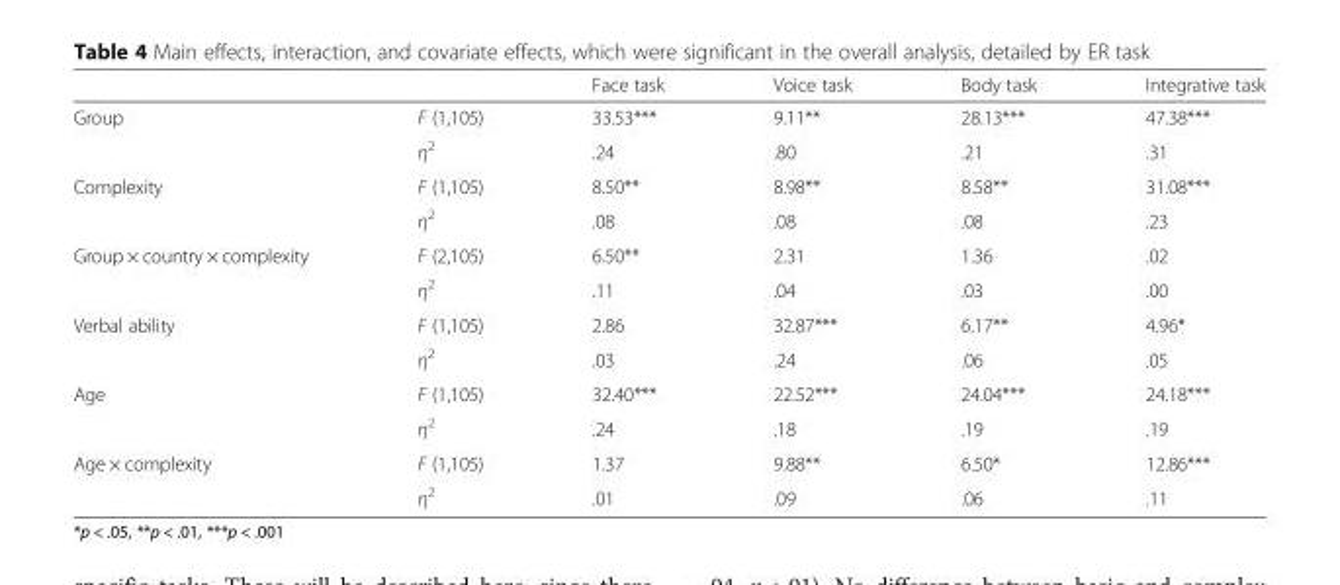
<table><thead><tr><td></td><td></td><td>Face task</td><td>Voice task</td><td>Body task</td><td>Integrative task</td></tr></thead><tbody><tr><td rowspan="2">Group</td><td>F (1,105)</td><td>33.53***</td><td>9.11**</td><td>28.13***</td><td>47.38***</td></tr><tr><td>η<sup>2</sup></td><td>.24</td><td>.80</td><td>.21</td><td>.31</td></tr><tr><td rowspan="2">Complexity</td><td>F (1,105)</td><td>8.50**</td><td>8.98**</td><td>8.58**</td><td>31.08***</td></tr><tr><td>η<sup>2</sup></td><td>.08</td><td>.08</td><td>.08</td><td>.23</td></tr><tr><td rowspan="2">Group × country × complexity</td><td>F (2,105)</td><td>6.50**</td><td>2.31</td><td>1.36</td><td>.02</td></tr><tr><td>η<sup>2</sup></td><td>.11</td><td>.04</td><td>.03</td><td>.00</td></tr><tr><td rowspan="2">Verbal ability</td><td>F (1,105)</td><td>2.86</td><td>32.87***</td><td>6.17**</td><td>4.96*</td></tr><tr><td>η<sup>2</sup></td><td>.03</td><td>.24</td><td>.06</td><td>.05</td></tr><tr><td rowspan="2">Age</td><td>F (1,105)</td><td>32.40***</td><td>22.52***</td><td>24.04***</td><td>24.18***</td></tr><tr><td>η<sup>2</sup></td><td>.24</td><td>.18</td><td>.19</td><td>.19</td></tr><tr><td rowspan="2">Age × complexity</td><td>F (1,105)</td><td>1.37</td><td>9.88**</td><td>6.50*</td><td>12.86***</td></tr><tr><td>η<sup>2</sup></td><td>.01</td><td>.09</td><td>.06</td><td>.11</td></tr></tbody></table>